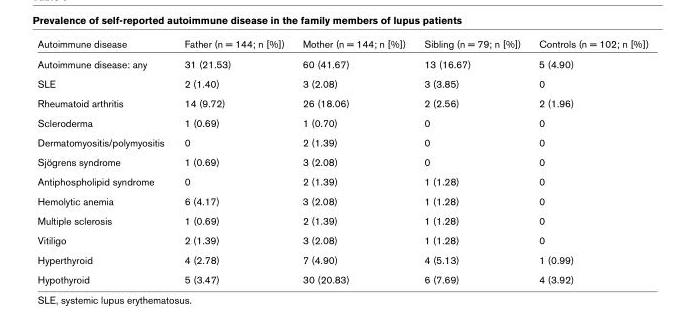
<table><thead><tr><td>Autoimmune disease</td><td>Father (n = 144; n [%])</td><td>Mother (n = 144; n [%])</td><td>Sibling (n = 79; n [%])</td><td>Controls (n = 102; n [%])</td></tr></thead><tbody><tr><td>Autoimmune disease: any</td><td>31 (21.53)</td><td>60 (41.67)</td><td>13 (16.67)</td><td>5 (4.90)</td></tr><tr><td>SLE</td><td>2 (1.40)</td><td>3 (2.08)</td><td>3 (3.85)</td><td>0</td></tr><tr><td>Rheumatoid arthritis</td><td>14 (9.72)</td><td>26 (18.06)</td><td>2 (2.56)</td><td>2 (1.96)</td></tr><tr><td>Scleroderma</td><td>1 (0.69)</td><td>1 (0.70)</td><td>0</td><td>0</td></tr><tr><td>Dermatomyositis/polymyositis</td><td>0</td><td>2 (1.39)</td><td>0</td><td>0</td></tr><tr><td>Sjögrens syndrome</td><td>1 (0.69)</td><td>3 (2.08)</td><td>0</td><td>0</td></tr><tr><td>Antiphospholipid syndrome</td><td>0</td><td>2 (1.39)</td><td>1 (1.28)</td><td>0</td></tr><tr><td>Hemolytic anemia</td><td>6 (4.17)</td><td>3 (2.08)</td><td>1 (1.28)</td><td>0</td></tr><tr><td>Multiple sclerosis</td><td>1 (0.69)</td><td>2 (1.39)</td><td>1 (1.28)</td><td>0</td></tr><tr><td>Vitiligo</td><td>2 (1.39)</td><td>3 (2.08)</td><td>1 (1.28)</td><td>0</td></tr><tr><td>Hyperthyroid</td><td>4 (2.78)</td><td>7 (4.90)</td><td>4 (5.13)</td><td>1 (0.99)</td></tr><tr><td>Hypothyroid</td><td>5 (3.47)</td><td>30 (20.83)</td><td>6 (7.69)</td><td>4 (3.92)</td></tr></tbody></table>